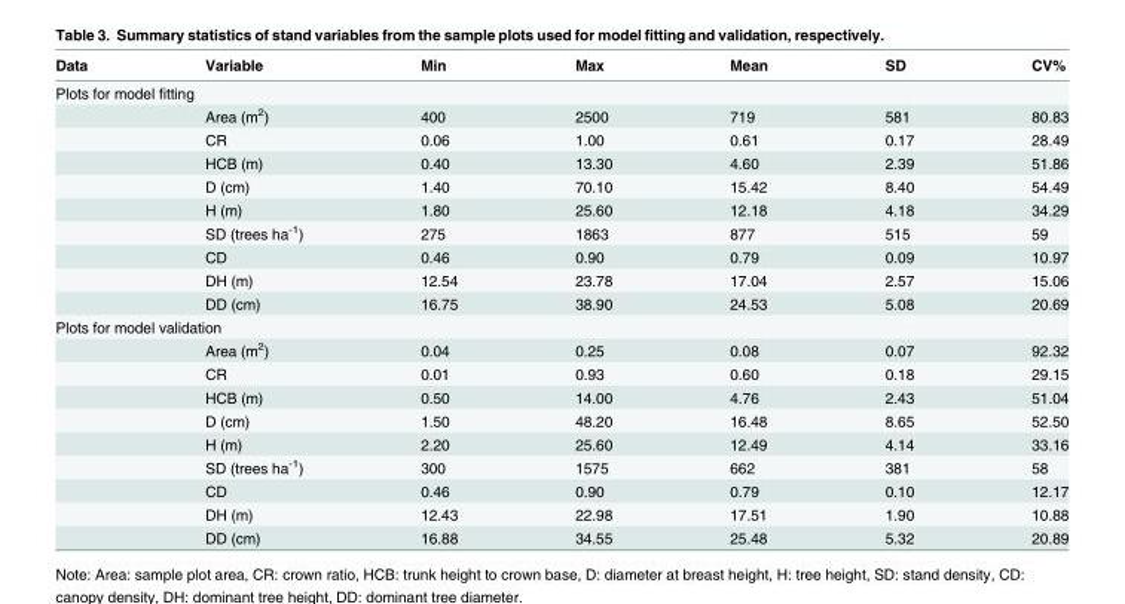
<table><thead><tr><td>Data</td><td>Variable</td><td>Min</td><td>Max</td><td>Mean</td><td>SD</td><td>CV%</td></tr></thead><tbody><tr><td colspan="7">Plots for model fitting</td></tr><tr><td></td><td>Area (m<sup>2</sup>)</td><td>400</td><td>2500</td><td>719</td><td>581</td><td>80.83</td></tr><tr><td></td><td>CR</td><td>0.06</td><td>1.00</td><td>0.61</td><td>0.17</td><td>28.49</td></tr><tr><td></td><td>HCB (m)</td><td>0.40</td><td>13.30</td><td>4.60</td><td>2.39</td><td>51.86</td></tr><tr><td></td><td>D (cm)</td><td>1.40</td><td>70.10</td><td>15.42</td><td>8.40</td><td>54.49</td></tr><tr><td></td><td>H (m)</td><td>1.80</td><td>25.60</td><td>12.18</td><td>4.18</td><td>34.29</td></tr><tr><td></td><td>SD (trees ha<sup>-1</sup>)</td><td>275</td><td>1863</td><td>877</td><td>515</td><td>59</td></tr><tr><td></td><td>CD</td><td>0.46</td><td>0.90</td><td>0.79</td><td>0.09</td><td>10.97</td></tr><tr><td></td><td>DH (m)</td><td>12.54</td><td>23.78</td><td>17.04</td><td>2.57</td><td>15.06</td></tr><tr><td></td><td>DD (cm)</td><td>16.75</td><td>38.90</td><td>24.53</td><td>5.08</td><td>20.69</td></tr><tr><td colspan="7">Plots for model validation</td></tr><tr><td></td><td>Area (m<sup>2</sup>)</td><td>0.04</td><td>0.25</td><td>0.08</td><td>0.07</td><td>92.32</td></tr><tr><td></td><td>CR</td><td>0.01</td><td>0.93</td><td>0.60</td><td>0.18</td><td>29.15</td></tr><tr><td></td><td>HCB (m)</td><td>0.50</td><td>14.00</td><td>4.76</td><td>2.43</td><td>51.04</td></tr><tr><td></td><td>D (cm)</td><td>1.50</td><td>48.20</td><td>16.48</td><td>8.65</td><td>52.50</td></tr><tr><td></td><td>H (m)</td><td>2.20</td><td>25.60</td><td>12.49</td><td>4.14</td><td>33.16</td></tr><tr><td></td><td>SD (trees ha<sup>-1</sup>)</td><td>300</td><td>1575</td><td>662</td><td>381</td><td>58</td></tr><tr><td></td><td>CD</td><td>0.46</td><td>0.90</td><td>0.79</td><td>0.10</td><td>12.17</td></tr><tr><td></td><td>DH (m)</td><td>12.43</td><td>22.98</td><td>17.51</td><td>1.90</td><td>10.88</td></tr><tr><td></td><td>DD (cm)</td><td>16.88</td><td>34.55</td><td>25.48</td><td>5.32</td><td>20.89</td></tr></tbody></table>